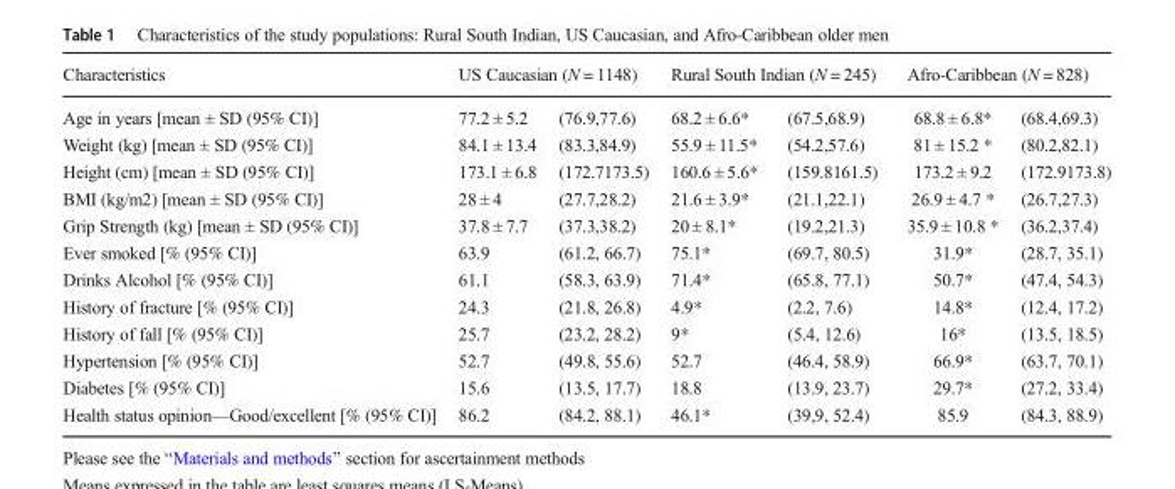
<table><thead><tr><td rowspan="2">Characteristics Age in years [mean ± SD (95% CI)]</td><td colspan="2">US Caucasian (N = 1148)</td><td colspan="2">Rural South Indian (N = 245)</td><td colspan="2">Afro-Caribbean (N = 828)</td></tr><tr><td>77.2 ± 5.2</td><td>(76.9,77.6)</td><td>68.2 ± 6.6*</td><td>(67.5,68.9)</td><td>68.8 ± 6.8*</td><td>(68.4,69.3)</td></tr></thead><tbody><tr><td>Weight (kg) [mean ± SD (95% CI)]</td><td>84.1 ± 13.4</td><td>(83.3,84.9)</td><td>55.9 ± 11.5*</td><td>(54.2,57.6)</td><td>81 ± 15.2 *</td><td>(80.2,82.1)</td></tr><tr><td>Height (cm) [mean ± SD (95% CI)]</td><td>173.1 ± 6.8</td><td>(172.7173.5)</td><td>160.6 ± 5.6*</td><td>(159.8161.5)</td><td>173.2 ± 9.2</td><td>(172.9173.8)</td></tr><tr><td>BMI (kg/m2) [mean ± SD (95% CI)]</td><td>28 ± 4</td><td>(27.7,28.2)</td><td>21.6 ± 3.9*</td><td>(21.1,22.1)</td><td>26.9 ± 4.7 *</td><td>(26.7,27.3)</td></tr><tr><td>Grip Strength (kg) [mean ± SD (95% CI)]</td><td>37.8 ± 7.7</td><td>(37.3,38.2)</td><td>20 ± 8.1*</td><td>(19.2,21.3)</td><td>35.9 ± 10.8 *</td><td>(36.2,37.4)</td></tr><tr><td>Ever smoked [% (95% CI)]</td><td>63.9</td><td>(61.2, 66.7)</td><td>75.1*</td><td>(69.7, 80.5)</td><td>31.9*</td><td>(28.7, 35.1)</td></tr><tr><td>Drinks Alcohol [% (95% CI)]</td><td>61.1</td><td>(58.3, 63.9)</td><td>71.4*</td><td>(65.8, 77.1)</td><td>50.7*</td><td>(47.4, 54.3)</td></tr><tr><td>History of fracture [% (95% CI)]</td><td>24.3</td><td>(21.8, 26.8)</td><td>4.9*</td><td>(2.2, 7.6)</td><td>14.8*</td><td>(12.4, 17.2)</td></tr><tr><td>History of fall [% (95% CI)]</td><td>25.7</td><td>(23.2, 28.2)</td><td>9*</td><td>(5.4, 12.6)</td><td>16*</td><td>(13.5, 18.5)</td></tr><tr><td>Hypertension [% (95% CI)]</td><td>52.7</td><td>(49.8, 55.6)</td><td>52.7</td><td>(46.4, 58.9)</td><td>66.9*</td><td>(63.7, 70.1)</td></tr><tr><td>Diabetes [% (95% CI)]</td><td>15.6</td><td>(13.5, 17.7)</td><td>18.8</td><td>(13.9, 23.7)</td><td>29.7*</td><td>(27.2, 33.4)</td></tr><tr><td>Health status opinion—Good/excellent [% (95% CI)]</td><td>86.2</td><td>(84.2, 88.1)</td><td>46.1*</td><td>(39,9, 52.4)</td><td>85.9</td><td>(84.3, 88.9)</td></tr></tbody></table>